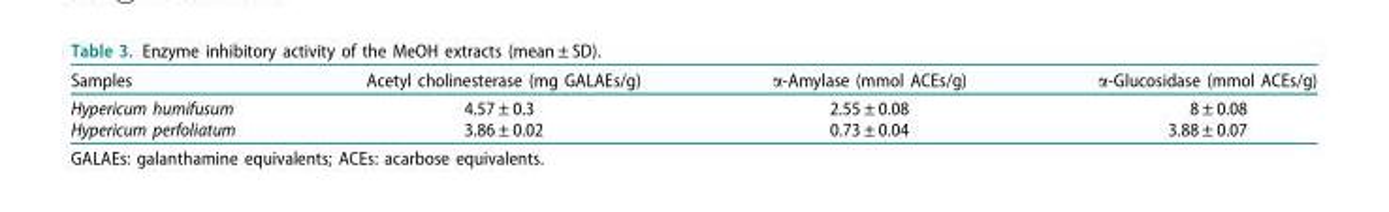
<table><thead><tr><td>Samples</td><td>Acetyl cholinesterase (mg GALAEs/g)</td><td>α-Amylase (mmol ACEs/g)</td><td>α-Glucosidase (mmol ACEs/g)</td></tr></thead><tbody><tr><td>Hypericum humifusum</td><td>4.57 ± 0.3</td><td>2.55 ± 0.08</td><td>8 ± 0.08</td></tr><tr><td>Hypericum perfoliatum</td><td>3.86 ± 0.02</td><td>0.73 ± 0.04</td><td>3.88 ± 0.07</td></tr></tbody></table>